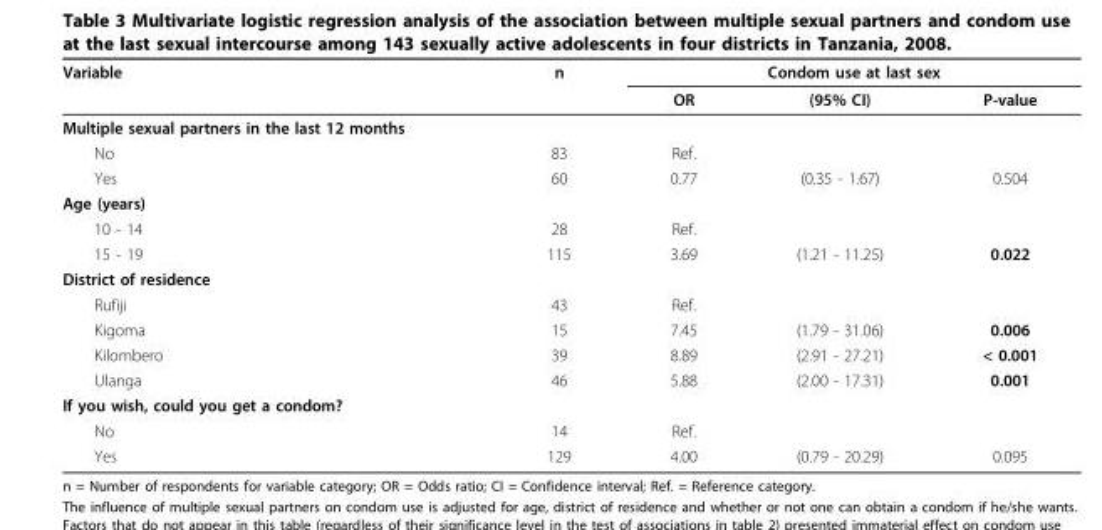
<table><thead><tr><td rowspan="2">Variable</td><td rowspan="2">n</td><td colspan="3">Condom use at last sex</td></tr><tr><td>OR</td><td>(95% CI)</td><td>P-value</td></tr></thead><tbody><tr><td colspan="5">Multiple sexual partners in the last 12 months</td></tr><tr><td>No</td><td>83</td><td>Ref.</td><td></td><td></td></tr><tr><td>Yes</td><td>60</td><td>0.77</td><td>(0.35 - 1.67)</td><td>0.504</td></tr><tr><td colspan="5">Age (years)</td></tr><tr><td>10 - 14</td><td>28</td><td>Ref.</td><td></td><td></td></tr><tr><td>15 - 19</td><td>115</td><td>3.69</td><td>(1.21 - 11.25)</td><td>0.022</td></tr><tr><td colspan="5">District of residence</td></tr><tr><td>Rufiji</td><td>43</td><td>Ref.</td><td></td><td></td></tr><tr><td>Kigoma</td><td>15</td><td>7.45</td><td>(1.79 - 31.06)</td><td>0.006</td></tr><tr><td>Kilombero</td><td>39</td><td>8.89</td><td>(2.91 - 27.21)</td><td>&lt; 0.001</td></tr><tr><td>Ulanga</td><td>46</td><td>5.88</td><td>(2.00 - 17.31)</td><td>0.001</td></tr><tr><td colspan="5">If you wish, could you get a condom?</td></tr><tr><td>No</td><td>14</td><td>Ref.</td><td></td><td></td></tr><tr><td>Yes</td><td>129</td><td>4.00</td><td>(0.79 - 20.29)</td><td>0.095</td></tr></tbody></table>